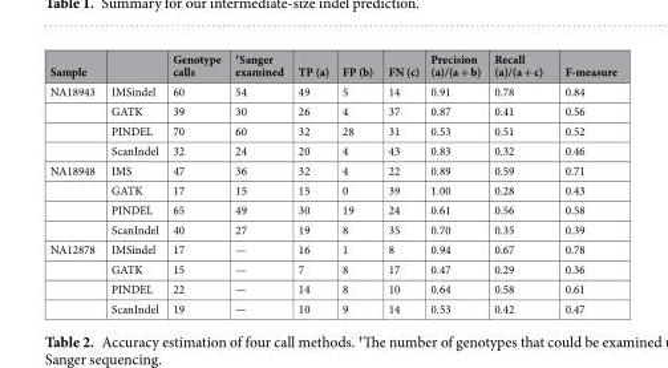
<table><thead><tr><td>Sample</td><td></td><td>Genotype calls</td><td><sup>†</sup>Sanger examined</td><td>TP (a)</td><td>FP (b)</td><td>FN (c)</td><td>Precision (a)/(a + b)</td><td>Recall (a)/(a + c)</td><td>F-measure</td></tr></thead><tbody><tr><td rowspan="4">NA18943</td><td>IMSindel</td><td>60</td><td>54</td><td>49</td><td>5</td><td>14</td><td>0.91</td><td>0.78</td><td>0.84</td></tr><tr><td>GATK</td><td>39</td><td>30</td><td>26</td><td>4</td><td>37</td><td>0.87</td><td>0.41</td><td>0.56</td></tr><tr><td>PINDEL</td><td>70</td><td>60</td><td>32</td><td>28</td><td>31</td><td>0.53</td><td>0.51</td><td>0.52</td></tr><tr><td>ScanIndel</td><td>32</td><td>24</td><td>20</td><td>4</td><td>43</td><td>0.83</td><td>0.32</td><td>0.46</td></tr><tr><td rowspan="4">NA18948</td><td>IMS</td><td>47</td><td>36</td><td>32</td><td>4</td><td>22</td><td>0.89</td><td>0.59</td><td>0.71</td></tr><tr><td>GATK</td><td>17</td><td>15</td><td>15</td><td>0</td><td>39</td><td>1.00</td><td>0.28</td><td>0.43</td></tr><tr><td>PINDEL</td><td>65</td><td>49</td><td>30</td><td>19</td><td>24</td><td>0.61</td><td>0.56</td><td>0.58</td></tr><tr><td>ScanIndel</td><td>40</td><td>27</td><td>19</td><td>8</td><td>35</td><td>0.70</td><td>0.35</td><td>0.39</td></tr><tr><td rowspan="4">NA12878</td><td>IMSindel</td><td>17</td><td>—</td><td>16</td><td>1</td><td>8</td><td>0.94</td><td>0.67</td><td>0.78</td></tr><tr><td>GATK</td><td>15</td><td>—</td><td>7</td><td>8</td><td>17</td><td>0.47</td><td>0.29</td><td>0.36</td></tr><tr><td>PINDEL</td><td>22</td><td>—</td><td>14</td><td>8</td><td>10</td><td>0.64</td><td>0.58</td><td>0.61</td></tr><tr><td>ScanIndel</td><td>19</td><td>—</td><td>10</td><td>9</td><td>14</td><td>0.53</td><td>0.42</td><td>0.47</td></tr></tbody></table>